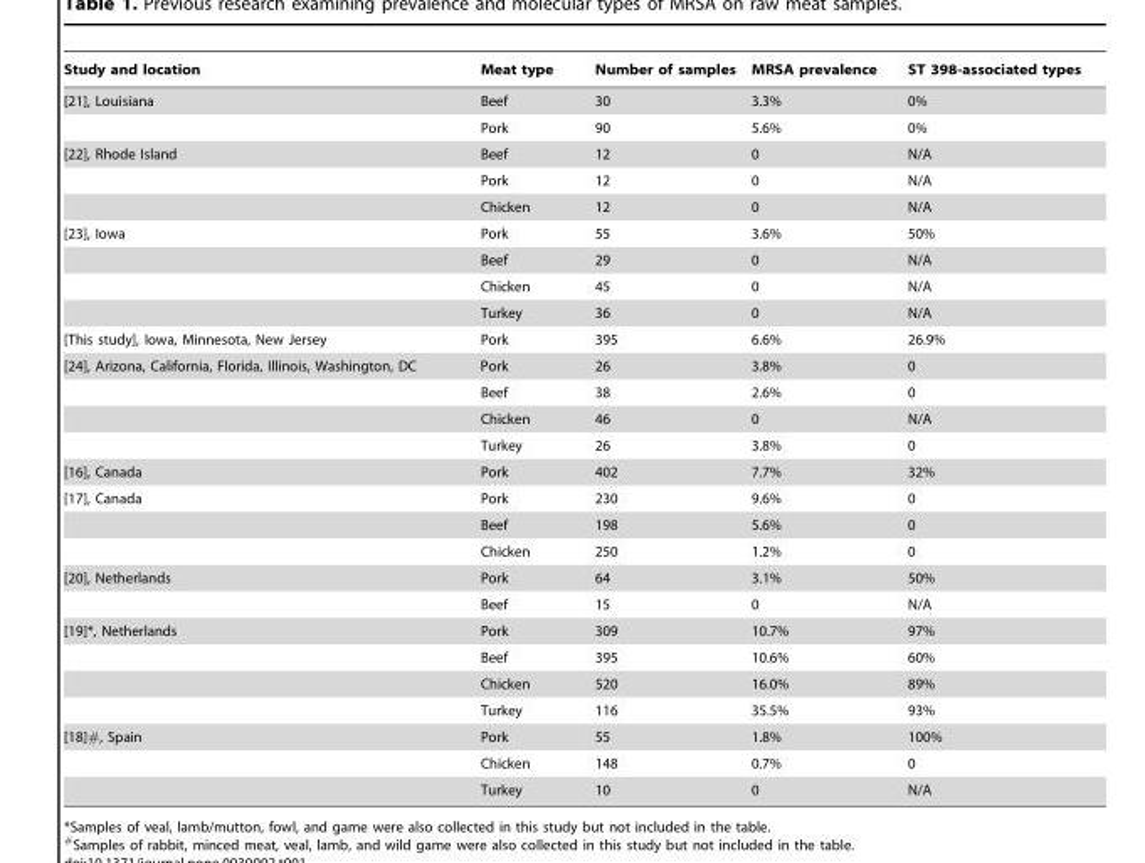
<table><thead><tr><td>Study and location</td><td>Meat type</td><td>Number of samples</td><td>MRSA prevalence</td><td>ST 398-associated types</td></tr></thead><tbody><tr><td rowspan="2">[21], Louisiana</td><td>Beef</td><td>30</td><td>3.3%</td><td>0%</td></tr><tr><td>Pork</td><td>90</td><td>5.6%</td><td>0%</td></tr><tr><td rowspan="3">[22], Rhode Island</td><td>Beef</td><td>12</td><td>0</td><td>N/A</td></tr><tr><td>Pork</td><td>12</td><td>0</td><td>N/A</td></tr><tr><td>Chicken</td><td>12</td><td>0</td><td>N/A</td></tr><tr><td rowspan="4">[23], Iowa</td><td>Pork</td><td>55</td><td>3.6%</td><td>50%</td></tr><tr><td>Beef</td><td>29</td><td>0</td><td>N/A</td></tr><tr><td>Chicken</td><td>45</td><td>0</td><td>N/A</td></tr><tr><td>Turkey</td><td>36</td><td>0</td><td>N/A</td></tr><tr><td>[This study], Iowa, Minnesota, New Jersey</td><td>Pork</td><td>395</td><td>6.6%</td><td>26.9%</td></tr><tr><td rowspan="4">[24], Arizona, California, Florida, Illinois, Washington, DC</td><td>Pork</td><td>26</td><td>3.8%</td><td>0</td></tr><tr><td>Beef</td><td>38</td><td>2.6%</td><td>0</td></tr><tr><td>Chicken</td><td>46</td><td>0</td><td>N/A</td></tr><tr><td>Turkey</td><td>26</td><td>3.8%</td><td>0</td></tr><tr><td>[16], Canada</td><td>Pork</td><td>402</td><td>7.7%</td><td>32%</td></tr><tr><td rowspan="3">[17], Canada</td><td>Pork</td><td>230</td><td>9.6%</td><td>0</td></tr><tr><td>Beef</td><td>198</td><td>5.6%</td><td>0</td></tr><tr><td>Chicken</td><td>250</td><td>1.2%</td><td>0</td></tr><tr><td rowspan="2">[20], Netherlands</td><td>Pork</td><td>64</td><td>3.1%</td><td>50%</td></tr><tr><td>Beef</td><td>15</td><td>0</td><td>N/A</td></tr><tr><td rowspan="4">[19]*, Netherlands</td><td>Pork</td><td>309</td><td>10.7%</td><td>97%</td></tr><tr><td>Beef</td><td>395</td><td>10.6%</td><td>60%</td></tr><tr><td>Chicken</td><td>520</td><td>16.0%</td><td>89%</td></tr><tr><td>Turkey</td><td>116</td><td>35.5%</td><td>93%</td></tr><tr><td rowspan="3">[18]#, Spain</td><td>Pork</td><td>55</td><td>1.8%</td><td>100%</td></tr><tr><td>Chicken</td><td>148</td><td>0.7%</td><td>0</td></tr><tr><td>Turkey</td><td>10</td><td>0</td><td>N/A</td></tr></tbody></table>